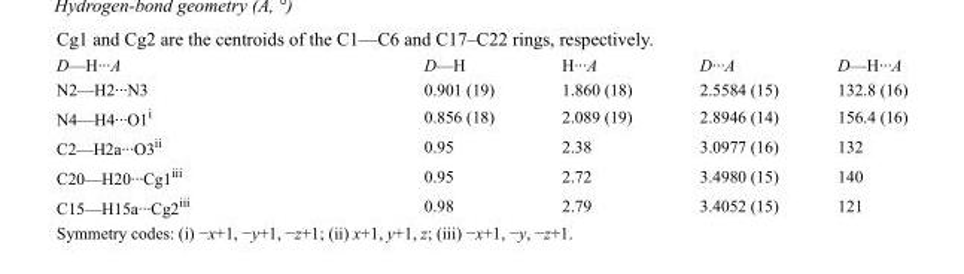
<table><tbody><tr><td>D—H···A</td><td>D—H</td><td>H···A</td><td>D···A</td><td>D—H···A</td></tr><tr><td>N2—H2···N3</td><td>0.901 (19)</td><td>1.860 (18)</td><td>2.5584 (15)</td><td>132.8 (16)</td></tr><tr><td>N4—H4···O1<sup>i</sup></td><td>0.856 (18)</td><td>2.089 (19)</td><td>2.8946 (14)</td><td>156.4 (16)</td></tr><tr><td>C2—H2a···O3<sup>ii</sup></td><td>0.95</td><td>2.38</td><td>3.0977 (16)</td><td>132</td></tr><tr><td>C20—H20···Cg1<sup>iii</sup></td><td>0.95</td><td>2.72</td><td>3.4980 (15)</td><td>140</td></tr><tr><td>C15—H15a···Cg2<sup>iii</sup></td><td>0.98</td><td>2.79</td><td>3.4052 (15)</td><td>121</td></tr></tbody></table>